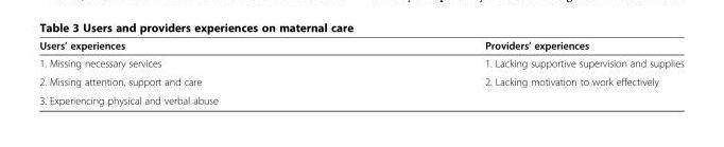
<table><thead><tr><td>Users’ experiences</td><td>Providers’ experiences</td></tr></thead><tbody><tr><td>1. Missing necessary services</td><td>1. Lacking supportive supervision and supplies</td></tr><tr><td>2. Missing attention, support and care</td><td rowspan="2">2. Lacking motivation to work effectively</td></tr><tr><td>3. Experiencing physical and verbal abuse</td></tr></tbody></table>